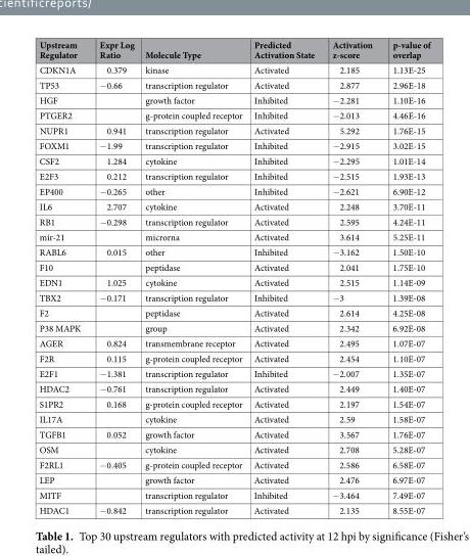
<table><thead><tr><td>Upstream Regulator</td><td>Expr Log Ratio</td><td>Molecule Type</td><td>Predicted Activation State</td><td>Activation z-score</td><td>p-value of overlap</td></tr></thead><tbody><tr><td>CDKN1A</td><td>0.379</td><td>kinase</td><td>Activated</td><td>2.185</td><td>1.13E-25</td></tr><tr><td>TP53</td><td>−0.66</td><td>transcription regulator</td><td>Activated</td><td>2.877</td><td>2.96E-18</td></tr><tr><td>HGF</td><td></td><td>growth factor</td><td>Inhibited</td><td>−2.281</td><td>1.10E-16</td></tr><tr><td>PTGER2</td><td></td><td>g-protein coupled receptor</td><td>Inhibited</td><td>−2.013</td><td>4.46E-16</td></tr><tr><td>NUPR1</td><td>0.941</td><td>transcription regulator</td><td>Activated</td><td>5.292</td><td>1.76E-15</td></tr><tr><td>FOXM1</td><td>−1.99</td><td>transcription regulator</td><td>Inhibited</td><td>−2.915</td><td>3.02E-15</td></tr><tr><td>CSF2</td><td>1.284</td><td>cytokine</td><td>Inhibited</td><td>−2.295</td><td>1.01E-14</td></tr><tr><td>E2F3</td><td>0.212</td><td>transcription regulator</td><td>Inhibited</td><td>−2.515</td><td>1.93E-13</td></tr><tr><td>EP400</td><td>−0.265</td><td>other</td><td>Inhibited</td><td>−2.621</td><td>6.90E-12</td></tr><tr><td>IL6</td><td>2.707</td><td>cytokine</td><td>Activated</td><td>2.248</td><td>3.70E-11</td></tr><tr><td>RB1</td><td>−0.298</td><td>transcription regulator</td><td>Activated</td><td>2.595</td><td>4.24E-11</td></tr><tr><td>mir-21</td><td></td><td>microrna</td><td>Activated</td><td>3.614</td><td>5.25E-11</td></tr><tr><td>RABL6</td><td>0.015</td><td>other</td><td>Inhibited</td><td>−3.162</td><td>1.50E-10</td></tr><tr><td>F10</td><td></td><td>peptidase</td><td>Activated</td><td>2.041</td><td>1.75E-10</td></tr><tr><td>EDN1</td><td>1.025</td><td>cytokine</td><td>Activated</td><td>2.515</td><td>1.14E-09</td></tr><tr><td>TBX2</td><td>−0.171</td><td>transcription regulator</td><td>Inhibited</td><td>−3</td><td>1.39E-08</td></tr><tr><td>F2</td><td></td><td>peptidase</td><td>Activated</td><td>2.614</td><td>4.25E-08</td></tr><tr><td>P38 MAPK</td><td></td><td>group</td><td>Activated</td><td>2.342</td><td>6.92E-08</td></tr><tr><td>AGER</td><td>0.824</td><td>transmembrane receptor</td><td>Activated</td><td>2.495</td><td>1.07E-07</td></tr><tr><td>F2R</td><td>0.115</td><td>g-protein coupled receptor</td><td>Activated</td><td>2.454</td><td>1.10E-07</td></tr><tr><td>E2F1</td><td>−1.381</td><td>transcription regulator</td><td>Inhibited</td><td>−2.007</td><td>1.35E-07</td></tr><tr><td>HDAC2</td><td>−0.761</td><td>transcription regulator</td><td>Activated</td><td>2.449</td><td>1.40E-07</td></tr><tr><td>S1PR2</td><td>0.168</td><td>g-protein coupled receptor</td><td>Activated</td><td>2.197</td><td>1.54E-07</td></tr><tr><td>IL17A</td><td></td><td>cytokine</td><td>Activated</td><td>2.59</td><td>1.58E-07</td></tr><tr><td>TGFB1</td><td>0.052</td><td>growth factor</td><td>Activated</td><td>3.567</td><td>1.76E-07</td></tr><tr><td>OSM</td><td></td><td>cytokine</td><td>Activated</td><td>2.708</td><td>5.28E-07</td></tr><tr><td>F2RL1</td><td>−0.405</td><td>g-protein coupled receptor</td><td>Activated</td><td>2.586</td><td>6.58E-07</td></tr><tr><td>LEP</td><td></td><td>growth factor</td><td>Activated</td><td>2.476</td><td>6.97E-07</td></tr><tr><td>MITF</td><td></td><td>transcription regulator</td><td>Inhibited</td><td>−3.464</td><td>7.49E-07</td></tr><tr><td>HDAC1</td><td>−0.842</td><td>transcription regulator</td><td>Activated</td><td>2.135</td><td>8.55E-07</td></tr></tbody></table>